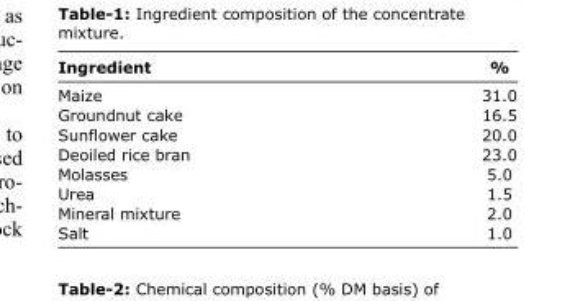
<table><thead><tr><td>Ingredient</td><td>%</td></tr></thead><tbody><tr><td>Maize</td><td>31.0</td></tr><tr><td>Groundnut cake</td><td>16.5</td></tr><tr><td>Sunflower cake</td><td>20.0</td></tr><tr><td>Deoiled rice bran</td><td>23.0</td></tr><tr><td>Molasses</td><td>5.0</td></tr><tr><td>Urea</td><td>1.5</td></tr><tr><td>Mineral mixture</td><td>2.0</td></tr><tr><td>Salt</td><td>1.0</td></tr></tbody></table>